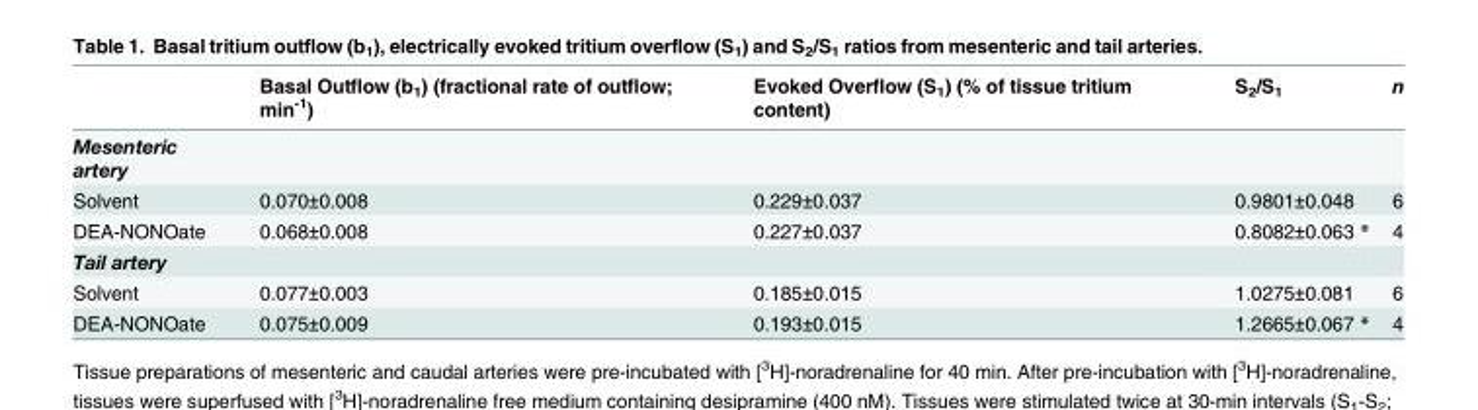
<table><thead><tr><td></td><td>Basal Outflow (b<sub>1</sub>) (fractional rate of outflow; min<sup>-1</sup>)</td><td>Evoked Overflow (S<sub>1</sub>) (% of tissue tritium content)</td><td>S<sub>2</sub>/S<sub>1</sub></td><td>n</td></tr></thead><tbody><tr><td colspan="5">Mesenteric artery</td></tr><tr><td>Solvent</td><td>0.070±0.008</td><td>0.229±0.037</td><td>0.9801±0.048</td><td>6</td></tr><tr><td>DEA-NONOate</td><td>0.068±0.008</td><td>0.227±0.037</td><td>0.8082±0.063 *</td><td>4</td></tr><tr><td colspan="5">Tail artery</td></tr><tr><td>Solvent</td><td>0.077±0.003</td><td>0.185±0.015</td><td>1.0275±0.081</td><td>6</td></tr><tr><td>DEA-NONOate</td><td>0.075±0.009</td><td>0.193±0.015</td><td>1.2665±0.067 *</td><td>4</td></tr></tbody></table>